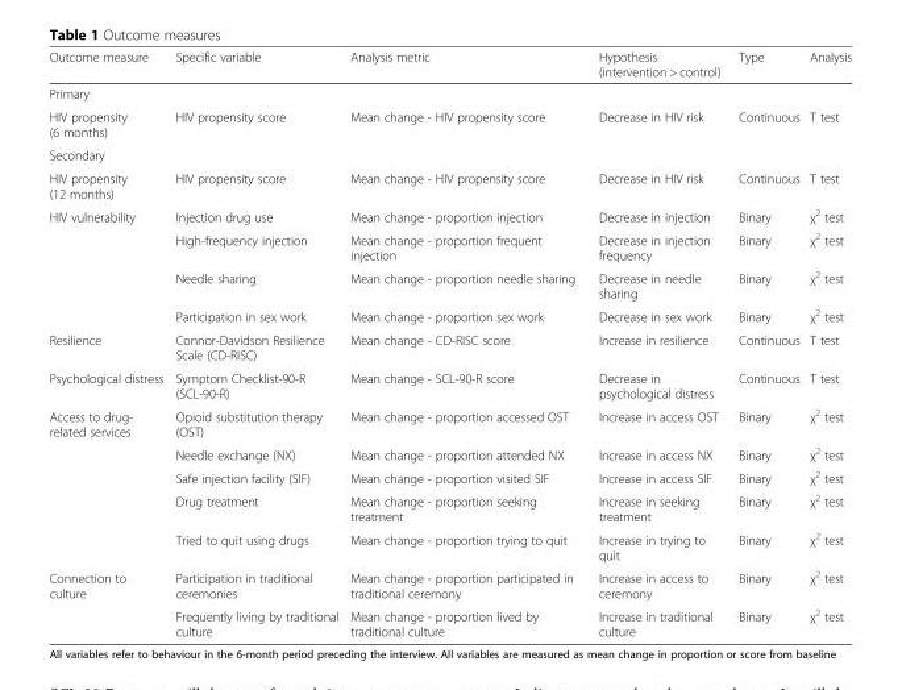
<table><thead><tr><td>Outcome measure</td><td>Specific variable</td><td>Analysis metric</td><td>Hypothesis (intervention &gt; control)</td><td>Type</td><td>Analysis</td></tr></thead><tbody><tr><td colspan="6">Primary</td></tr><tr><td>HIV propensity (6 months)</td><td>HIV propensity score</td><td>Mean change - HIV propensity score</td><td>Decrease in HIV risk</td><td>Continuous</td><td>T test</td></tr><tr><td colspan="6">Secondary</td></tr><tr><td>HIV propensity (12 months)</td><td>HIV propensity score</td><td>Mean change - HIV propensity score</td><td>Decrease in HIV risk</td><td>Continuous</td><td>T test</td></tr><tr><td rowspan="4">HIV vulnerability</td><td>Injection drug use</td><td>Mean change - proportion injection</td><td>Decrease in injection</td><td>Binary</td><td>χ<sup>2</sup> test</td></tr><tr><td>High-frequency injection</td><td>Mean change - proportion frequent injection</td><td>Decrease in injection frequency</td><td>Binary</td><td>χ<sup>2</sup> test</td></tr><tr><td>Needle sharing</td><td>Mean change - proportion needle sharing</td><td>Decrease in needle sharing</td><td>Binary</td><td>χ<sup>2</sup> test</td></tr><tr><td>Participation in sex work</td><td>Mean change - proportion sex work</td><td>Decrease in sex work</td><td>Binary</td><td>χ<sup>2</sup> test</td></tr><tr><td>Resilience</td><td>Connor-Davidson Resilience Scale (CD-RISC)</td><td>Mean change - CD-RISC score</td><td>Increase in resilience</td><td>Continuous</td><td>T test</td></tr><tr><td>Psychological distress</td><td>Symptom Checklist-90-R (SCL-90-R)</td><td>Mean change - SCL-90-R score</td><td>Decrease in psychological distress</td><td>Continuous</td><td>T test</td></tr><tr><td rowspan="5">Access to drug- related services</td><td>Opioid substitution therapy (OST)</td><td>Mean change - proportion accessed OST</td><td>Increase in access OST</td><td>Binary</td><td>χ<sup>2</sup> test</td></tr><tr><td>Needle exchange (NX)</td><td>Mean change - proportion attended NX</td><td>Increase in access NX</td><td>Binary</td><td>χ<sup>2</sup> test</td></tr><tr><td>Safe injection facility (SIF)</td><td>Mean change - proportion visited SIF</td><td>Increase in access SIF</td><td>Binary</td><td>χ<sup>2</sup> test</td></tr><tr><td>Drug treatment</td><td>Mean change - proportion seeking treatment</td><td>Increase in seeking treatment</td><td>Binary</td><td>χ<sup>2</sup> test</td></tr><tr><td>Tried to quit using drugs</td><td>Mean change - proportion trying to quit</td><td>Increase in trying to quit</td><td>Binary</td><td>χ<sup>2</sup> test</td></tr><tr><td rowspan="2">Connection to culture</td><td>Participation in traditional ceremonies</td><td>Mean change - proportion participated in traditional ceremony</td><td>Increase in access to ceremony</td><td>Binary</td><td>χ<sup>2</sup> test</td></tr><tr><td>Frequently living by traditional culture</td><td>Mean change - proportion lived by traditional culture</td><td>Increase in traditional culture</td><td>Binary</td><td>χ<sup>2</sup> test</td></tr></tbody></table>